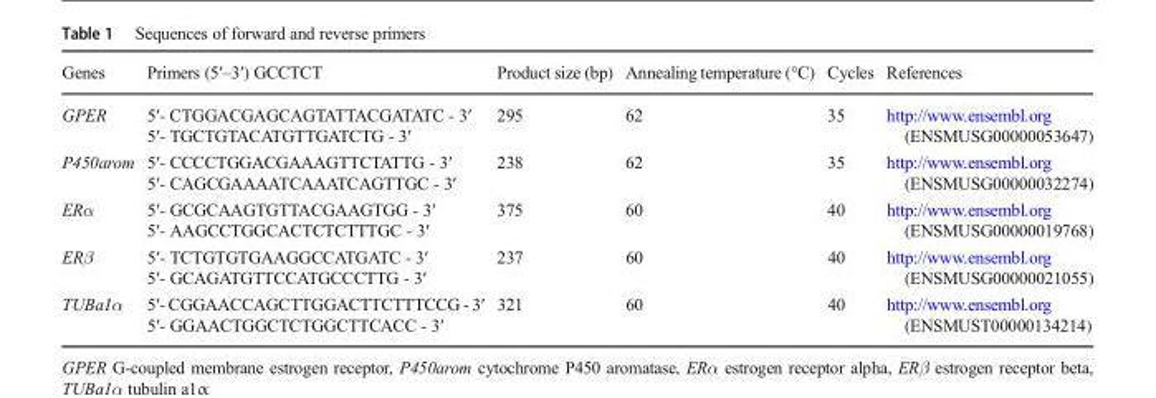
<table><thead><tr><td>Genes</td><td>Primers (5′–3′) GCCTCT</td><td>Product size (bp)</td><td>Annealing temperature (°C)</td><td>Cycles</td><td>References</td></tr></thead><tbody><tr><td>GPER</td><td>5′- CTGGACGAGCAGTATTACGATATC - 3′ 5′- TGCTGTACATGTTGATCTG - 3′</td><td>295</td><td>62</td><td>35</td><td>http://www.ensembl.org (ENSMUSG00000053647)</td></tr><tr><td>P450arom</td><td>5′- CCCCTGGACGAAAGTTCTATTG - 3′ 5′- CAGCGAAAATCAAATCAGTTGC - 3′</td><td>238</td><td>62</td><td>35</td><td>http://www.ensembl.org (ENSMUSG00000032274)</td></tr><tr><td>ERα</td><td>5′- GCGCAAGTGTTACGAAGTGG - 3′ 5′- AAGCCTGGCACTCTCTTTGC - 3′</td><td>375</td><td>60</td><td>40</td><td>http://www.ensembl.org (ENSMUSG00000019768)</td></tr><tr><td>ERβ</td><td>5′- TCTGTGTGAAGGCCATGATC - 3′ 5′- GCAGATGTTCCATGCCCTTG - 3′</td><td>237</td><td>60</td><td>40</td><td>http://www.ensembl.org (ENSMUSG00000021055)</td></tr><tr><td>TUBa1α</td><td>5′- CGGAACCAGCTTGGACTTCTTTCCG - 3′ 5′- GGAACTGGCTCTGGCTTCACC - 3′</td><td>321</td><td>60</td><td>40</td><td>http://www.ensembl.org (ENSMUST00000134214)</td></tr></tbody></table>